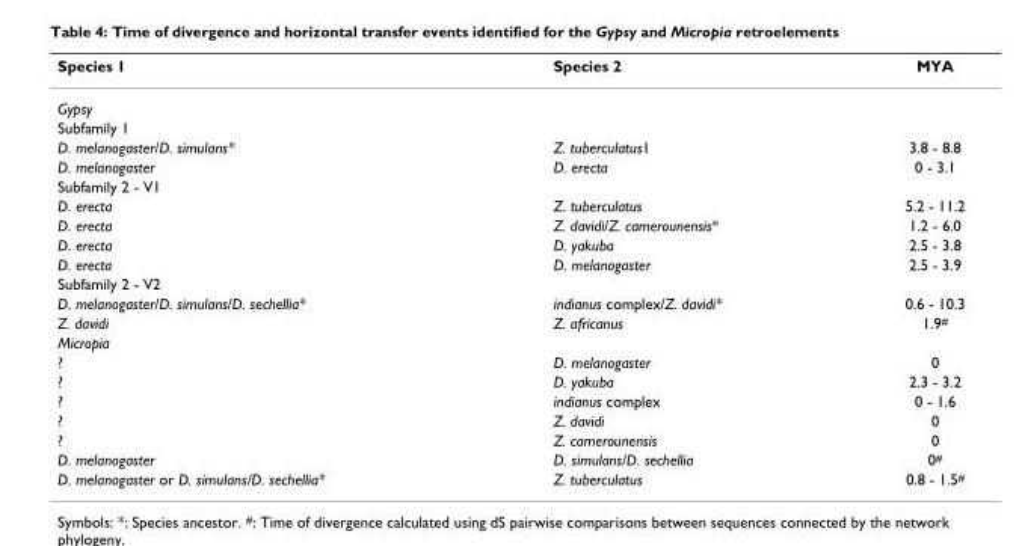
<table><thead><tr><td>Species 1</td><td>Species 2</td><td>MYA</td></tr></thead><tbody><tr><td colspan="3">Gypsy</td></tr><tr><td colspan="3">Subfamily 1</td></tr><tr><td>D. melanogaster/D. simulans*</td><td>Z. tuberculatus1</td><td>3.8 - 8.8</td></tr><tr><td>D. melanogaster</td><td>D. erecta</td><td>0 - 3.1</td></tr><tr><td colspan="3">Subfamily 2 - V1</td></tr><tr><td>D. erecta</td><td>Z. tuberculatus</td><td>5.2 - 11.2</td></tr><tr><td>D. erecta</td><td>Z. davidi/Z. camerounensis*</td><td>1.2 - 6.0</td></tr><tr><td>D. erecta</td><td>D. yakuba</td><td>2.5 - 3.8</td></tr><tr><td>D. erecta</td><td>D. melanogaster</td><td>2.5 - 3.9</td></tr><tr><td colspan="3">Subfamily 2 - V2</td></tr><tr><td>D. melanogaster/D. simulans/D. sechellia*</td><td>indianus complex/Z. davidi*</td><td>0.6 - 10.3</td></tr><tr><td>Z. davidi</td><td>Z. africanus</td><td>1.9<sup>#</sup></td></tr><tr><td colspan="3">Micropia</td></tr><tr><td>?</td><td>D. melanogaster</td><td>0</td></tr><tr><td>?</td><td>D. yakuba</td><td>2.3 - 3.2</td></tr><tr><td>?</td><td>indianus complex</td><td>0 - 1.6</td></tr><tr><td>?</td><td>Z. davidi</td><td>0</td></tr><tr><td>?</td><td>Z. camerounensis</td><td>0</td></tr><tr><td>D. melanogaster</td><td>D. simulans/D. sechellia</td><td>0<sup>#</sup></td></tr><tr><td>D. melanogaster or D. simulans/D. sechellia*</td><td>Z. tuberculatus</td><td>0.8 - 1.5<sup>#</sup></td></tr></tbody></table>